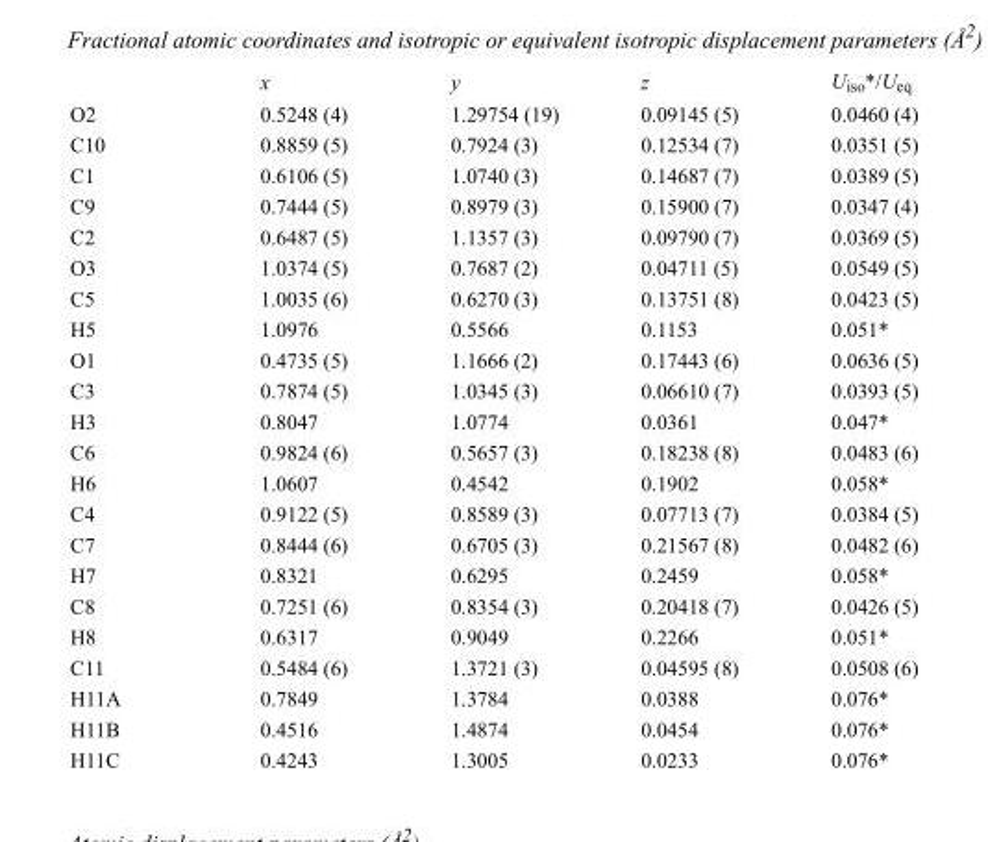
<table><thead><tr><td></td><td>x</td><td>y</td><td>z</td><td>U<sub>iso</sub>*/U<sub>eq</sub></td></tr></thead><tbody><tr><td>O2</td><td>0.5248 (4)</td><td>1.29754 (19)</td><td>0.09145 (5)</td><td>0.0460 (4)</td></tr><tr><td>C10</td><td>0.8859 (5)</td><td>0.7924 (3)</td><td>0.12534 (7)</td><td>0.0351 (5)</td></tr><tr><td>C1</td><td>0.6106 (5)</td><td>1.0740 (3)</td><td>0.14687 (7)</td><td>0.0389 (5)</td></tr><tr><td>C9</td><td>0.7444 (5)</td><td>0.8979 (3)</td><td>0.15900 (7)</td><td>0.0347 (4)</td></tr><tr><td>C2</td><td>0.6487 (5)</td><td>1.1357 (3)</td><td>0.09790 (7)</td><td>0.0369 (5)</td></tr><tr><td>O3</td><td>1.0374 (5)</td><td>0.7687 (2)</td><td>0.04711 (5)</td><td>0.0549 (5)</td></tr><tr><td>C5</td><td>1.0035 (6)</td><td>0.6270 (3)</td><td>0.13751 (8)</td><td>0.0423 (5)</td></tr><tr><td>H5</td><td>1.0976</td><td>0.5566</td><td>0.1153</td><td>0.051*</td></tr><tr><td>O1</td><td>0.4735 (5)</td><td>1.1666 (2)</td><td>0.17443 (6)</td><td>0.0636 (5)</td></tr><tr><td>C3</td><td>0.7874 (5)</td><td>1.0345 (3)</td><td>0.06610 (7)</td><td>0.0393 (5)</td></tr><tr><td>H3</td><td>0.8047</td><td>1.0774</td><td>0.0361</td><td>0.047*</td></tr><tr><td>C6</td><td>0.9824 (6)</td><td>0.5657 (3)</td><td>0.18238 (8)</td><td>0.0483 (6)</td></tr><tr><td>H6</td><td>1.0607</td><td>0.4542</td><td>0.1902</td><td>0.058*</td></tr><tr><td>C4</td><td>0.9122 (5)</td><td>0.8589 (3)</td><td>0.07713 (7)</td><td>0.0384 (5)</td></tr><tr><td>C7</td><td>0.8444 (6)</td><td>0.6705 (3)</td><td>0.21567 (8)</td><td>0.0482 (6)</td></tr><tr><td>H7</td><td>0.8321</td><td>0.6295</td><td>0.2459</td><td>0.058*</td></tr><tr><td>C8</td><td>0.7251 (6)</td><td>0.8354 (3)</td><td>0.20418 (7)</td><td>0.0426 (5)</td></tr><tr><td>H8</td><td>0.6317</td><td>0.9049</td><td>0.2266</td><td>0.051*</td></tr><tr><td>C11</td><td>0.5484 (6)</td><td>1.3721 (3)</td><td>0.04595 (8)</td><td>0.0508 (6)</td></tr><tr><td>H11A</td><td>0.7849</td><td>1.3784</td><td>0.0388</td><td>0.076*</td></tr><tr><td>H11B</td><td>0.4516</td><td>1.4874</td><td>0.0454</td><td>0.076*</td></tr><tr><td>H11C</td><td>0.4243</td><td>1.3005</td><td>0.0233</td><td>0.076*</td></tr></tbody></table>